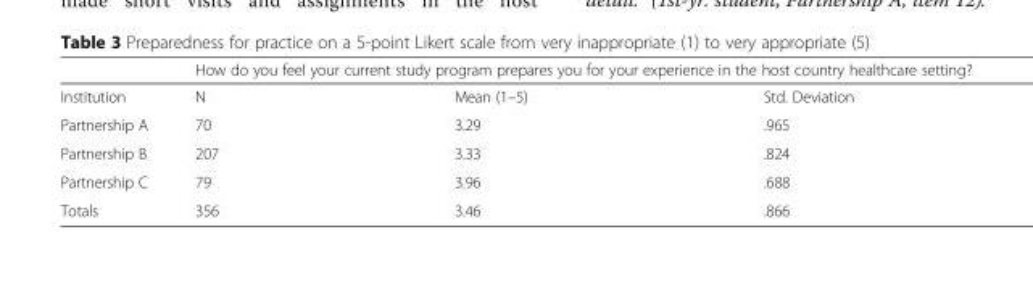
<table><thead><tr><td rowspan="2">Institution</td><td colspan="3">How do you feel your current study program prepares you for your experience in the host country healthcare setting?</td></tr><tr><td>N</td><td>Mean (1–5)</td><td>Std. Deviation</td></tr></thead><tbody><tr><td>Partnership A</td><td>70</td><td>3.29</td><td>.965</td></tr><tr><td>Partnership B</td><td>207</td><td>3.33</td><td>.824</td></tr><tr><td>Partnership C</td><td>79</td><td>3.96</td><td>.688</td></tr><tr><td>Totals</td><td>356</td><td>3.46</td><td>.866</td></tr></tbody></table>